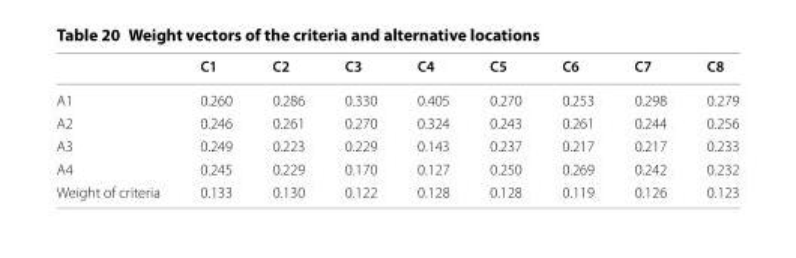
<table><thead><tr><td></td><td>C1</td><td>C2</td><td>C3</td><td>C4</td><td>C5</td><td>C6</td><td>C7</td><td>C8</td></tr></thead><tbody><tr><td>A1</td><td>0.260</td><td>0.286</td><td>0.330</td><td>0.405</td><td>0.270</td><td>0.253</td><td>0.298</td><td>0.279</td></tr><tr><td>A2</td><td>0.246</td><td>0.261</td><td>0.270</td><td>0.324</td><td>0.243</td><td>0.261</td><td>0.244</td><td>0.256</td></tr><tr><td>A3</td><td>0.249</td><td>0.223</td><td>0.229</td><td>0.143</td><td>0.237</td><td>0.217</td><td>0.217</td><td>0.233</td></tr><tr><td>A4</td><td>0.245</td><td>0.229</td><td>0.170</td><td>0.127</td><td>0.250</td><td>0.269</td><td>0.242</td><td>0.232</td></tr><tr><td>Weight of criteria</td><td>0.133</td><td>0.130</td><td>0.122</td><td>0.128</td><td>0.128</td><td>0.119</td><td>0.126</td><td>0.123</td></tr></tbody></table>